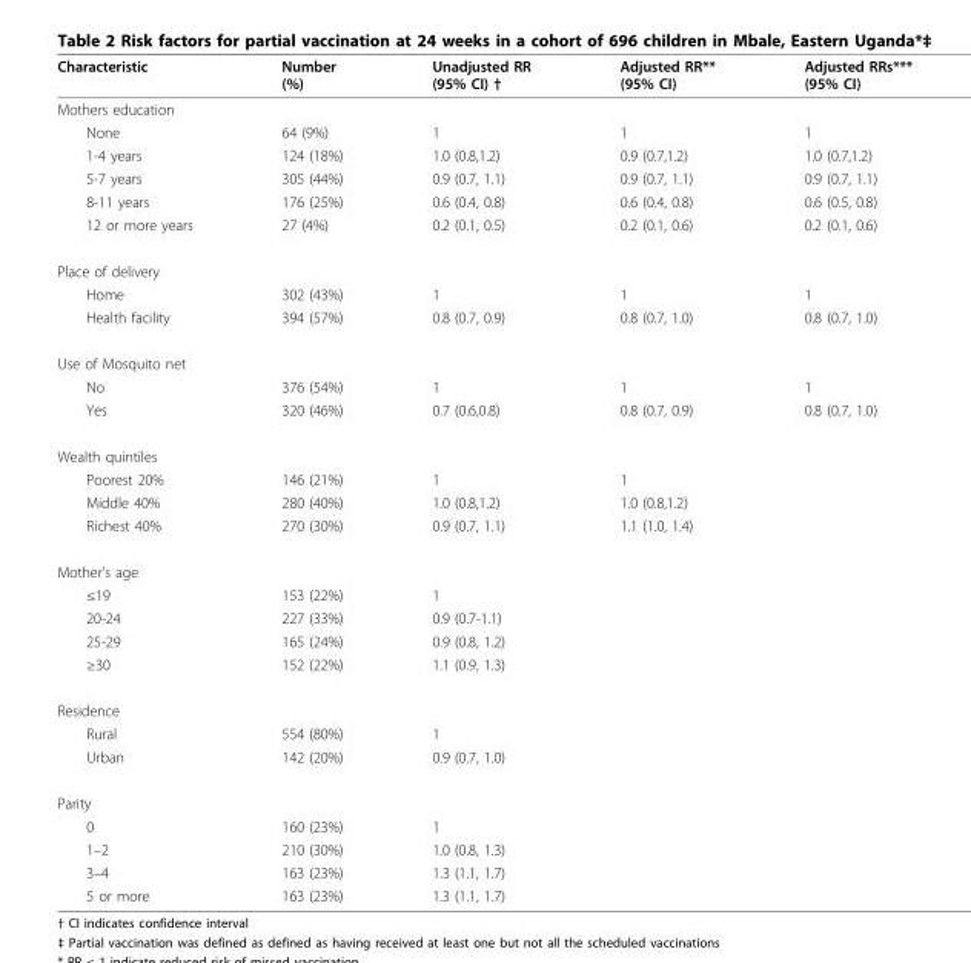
<table><thead><tr><td>Characteristic</td><td>Number (%)</td><td>Unadjusted RR (95% CI) †</td><td>Adjusted RR** (95% CI)</td><td>Adjusted RRs*** (95% CI)</td></tr></thead><tbody><tr><td colspan="5">Mothers education</td></tr><tr><td>None</td><td>64 (9%)</td><td>1</td><td>1</td><td>1</td></tr><tr><td>1-4 years</td><td>124 (18%)</td><td>1.0 (0.8,1.2)</td><td>0.9 (0.7,1.2)</td><td>1.0 (0.7,1.2)</td></tr><tr><td>5-7 years</td><td>305 (44%)</td><td>0.9 (0.7, 1.1)</td><td>0.9 (0.7, 1.1)</td><td>0.9 (0.7, 1.1)</td></tr><tr><td>8-11 years</td><td>176 (25%)</td><td>0.6 (0.4, 0.8)</td><td>0.6 (0.4, 0.8)</td><td>0.6 (0.5, 0.8)</td></tr><tr><td>12 or more years</td><td>27 (4%)</td><td>0.2 (0.1, 0.5)</td><td>0.2 (0.1, 0.6)</td><td>0.2 (0.1, 0.6)</td></tr><tr><td colspan="5">Place of delivery</td></tr><tr><td>Home</td><td>302 (43%)</td><td>1</td><td>1</td><td>1</td></tr><tr><td>Health facility</td><td>394 (57%)</td><td>0.8 (0.7, 0.9)</td><td>0.8 (0.7, 1.0)</td><td>0.8 (0.7, 1.0)</td></tr><tr><td colspan="5">Use of Mosquito net</td></tr><tr><td>No</td><td>376 (54%)</td><td>1</td><td>1</td><td>1</td></tr><tr><td>Yes</td><td>320 (46%)</td><td>0.7 (0.6,0.8)</td><td>0.8 (0.7, 0.9)</td><td>0.8 (0.7, 1.0)</td></tr><tr><td colspan="5">Wealth quintiles</td></tr><tr><td>Poorest 20%</td><td>146 (21%)</td><td>1</td><td>1</td><td></td></tr><tr><td>Middle 40%</td><td>280 (40%)</td><td>1.0 (0.8,1.2)</td><td>1.0 (0.8,1.2)</td><td></td></tr><tr><td>Richest 40%</td><td>270 (30%)</td><td>0.9 (0.7, 1.1)</td><td>1.1 (1.0, 1.4)</td><td></td></tr><tr><td colspan="5">Mother’s age</td></tr><tr><td>≤19</td><td>153 (22%)</td><td>1</td><td></td><td></td></tr><tr><td>20-24</td><td>227 (33%)</td><td>0.9 (0.7-1.1)</td><td></td><td></td></tr><tr><td>25-29</td><td>165 (24%)</td><td>0.9 (0.8, 1.2)</td><td></td><td></td></tr><tr><td>≥30</td><td>152 (22%)</td><td>1.1 (0.9, 1.3)</td><td></td><td></td></tr><tr><td colspan="5">Residence</td></tr><tr><td>Rural</td><td>554 (80%)</td><td>1</td><td></td><td></td></tr><tr><td>Urban</td><td>142 (20%)</td><td>0.9 (0.7, 1.0)</td><td></td><td></td></tr><tr><td colspan="5">Parity</td></tr><tr><td>0</td><td>160 (23%)</td><td>1</td><td></td><td></td></tr><tr><td>1–2</td><td>210 (30%)</td><td>1.0 (0.8, 1.3)</td><td></td><td></td></tr><tr><td>3–4</td><td>163 (23%)</td><td>1.3 (1.1, 1.7)</td><td></td><td></td></tr><tr><td>5 or more</td><td>163 (23%)</td><td>1.3 (1.1, 1.7)</td><td></td><td></td></tr></tbody></table>